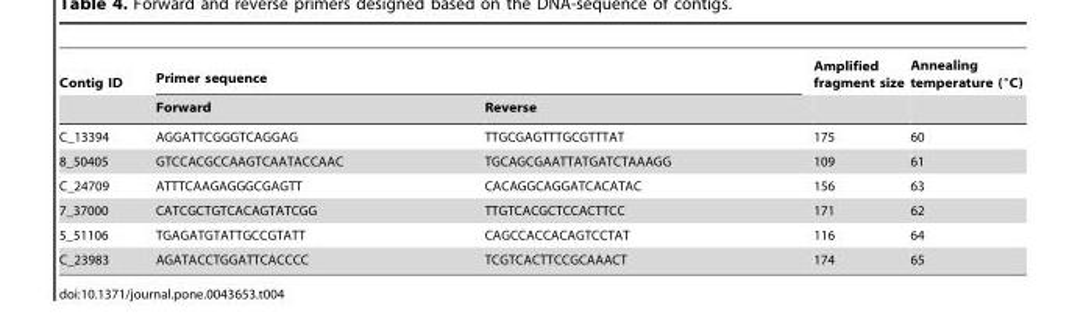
<table><thead><tr><td rowspan="2">Contig ID</td><td colspan="2">Primer sequence</td><td rowspan="2">Amplified fragment size</td><td rowspan="2">Annealing temperature (°C)</td></tr><tr><td>Forward</td><td>Reverse</td></tr></thead><tbody><tr><td>C_13394</td><td>AGGATTCGGGTCAGGAG</td><td>TTGCGAGTTTGCGTTTAT</td><td>175</td><td>60</td></tr><tr><td>8_50405</td><td>GTCCACGCCAAGTCAATACCAAC</td><td>TGCAGCGAATTATGATCTAAAGG</td><td>109</td><td>61</td></tr><tr><td>C_24709</td><td>ATTTCAAGAGGGCGAGTT</td><td>CACAGGCAGGATCACATAC</td><td>156</td><td>63</td></tr><tr><td>7_37000</td><td>CATCGCTGTCACAGTATCGG</td><td>TTGTCACGCTCCACTTCC</td><td>171</td><td>62</td></tr><tr><td>5_51106</td><td>TGAGATGTATTGCCGTATT</td><td>CAGCCACCACAGTCCTAT</td><td>116</td><td>64</td></tr><tr><td>C_23983</td><td>AGATACCTGGATTCACCCC</td><td>TCGTCACTTCCGCAAACT</td><td>174</td><td>65</td></tr></tbody></table>